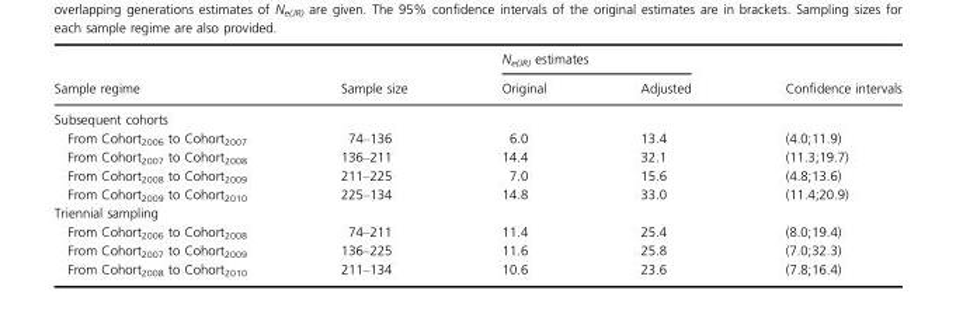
<table><thead><tr><td rowspan="2">Sample regime</td><td rowspan="2">Sample size</td><td colspan="2">N<sub>e(JR)</sub> estimates</td><td rowspan="2">Confidence intervals</td></tr><tr><td>Original</td><td>Adjusted</td></tr></thead><tbody><tr><td colspan="5">Subsequent cohorts</td></tr><tr><td>From Cohort<sub>2006</sub> to Cohort<sub>2007</sub></td><td>74–136</td><td>6.0</td><td>13.4</td><td>(4.0;11.9)</td></tr><tr><td>From Cohort<sub>2007</sub> to Cohort<sub>2008</sub></td><td>136–211</td><td>14.4</td><td>32.1</td><td>(11.3;19.7)</td></tr><tr><td>From Cohort<sub>2008</sub> to Cohort<sub>2009</sub></td><td>211–225</td><td>7.0</td><td>15.6</td><td>(4.8;13.6)</td></tr><tr><td>From Cohort<sub>2009</sub> to Cohort<sub>2010</sub></td><td>225–134</td><td>14.8</td><td>33.0</td><td>(11.4;20.9)</td></tr><tr><td colspan="5">Triennial sampling</td></tr><tr><td>From Cohort<sub>2006</sub> to Cohort<sub>2008</sub></td><td>74–211</td><td>11.4</td><td>25.4</td><td>(8.0;19.4)</td></tr><tr><td>From Cohort<sub>2007</sub> to Cohort<sub>2009</sub></td><td>136–225</td><td>11.6</td><td>25.8</td><td>(7.0;32.3)</td></tr><tr><td>From Cohort<sub>2008</sub> to Cohort<sub>2010</sub></td><td>211–134</td><td>10.6</td><td>23.6</td><td>(7.8;16.4)</td></tr></tbody></table>